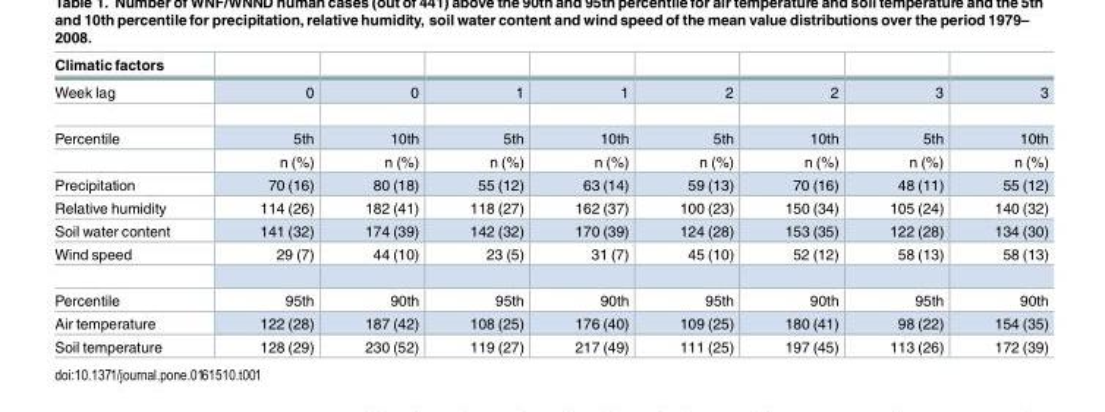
<table><thead><tr><td>Climatic factors</td><td></td><td></td><td></td><td></td><td></td><td></td><td></td><td></td></tr></thead><tbody><tr><td>Week lag</td><td>0</td><td>0</td><td>1</td><td>1</td><td>2</td><td>2</td><td>3</td><td>3</td></tr><tr><td rowspan="2">Percentile</td><td>5th</td><td>10th</td><td>5th</td><td>10th</td><td>5th</td><td>10th</td><td>5th</td><td>10th</td></tr><tr><td>n (%)</td><td>n (%)</td><td>n (%)</td><td>n (%)</td><td>n (%)</td><td>n (%)</td><td>n (%)</td><td>n (%)</td></tr><tr><td>Precipitation</td><td>70 (16)</td><td>80 (18)</td><td>55 (12)</td><td>63 (14)</td><td>59 (13)</td><td>70 (16)</td><td>48 (11)</td><td>55 (12)</td></tr><tr><td>Relative humidity</td><td>114 (26)</td><td>182 (41)</td><td>118 (27)</td><td>162 (37)</td><td>100 (23)</td><td>150 (34)</td><td>105 (24)</td><td>140 (32)</td></tr><tr><td>Soil water content</td><td>141 (32)</td><td>174 (39)</td><td>142 (32)</td><td>170 (39)</td><td>124 (28)</td><td>153 (35)</td><td>122 (28)</td><td>134 (30)</td></tr><tr><td>Wind speed</td><td>29 (7)</td><td>44 (10)</td><td>23 (5)</td><td>31 (7)</td><td>45 (10)</td><td>52 (12)</td><td>58 (13)</td><td>58 (13)</td></tr><tr><td>Percentile</td><td>95th</td><td>90th</td><td>95th</td><td>90th</td><td>95th</td><td>90th</td><td>95th</td><td>90th</td></tr><tr><td>Air temperature</td><td>122 (28)</td><td>187 (42)</td><td>108 (25)</td><td>176 (40)</td><td>109 (25)</td><td>180 (41)</td><td>98 (22)</td><td>154 (35)</td></tr><tr><td>Soil temperature</td><td>128 (29)</td><td>230 (52)</td><td>119 (27)</td><td>217 (49)</td><td>111 (25)</td><td>197 (45)</td><td>113 (26)</td><td>172 (39)</td></tr></tbody></table>